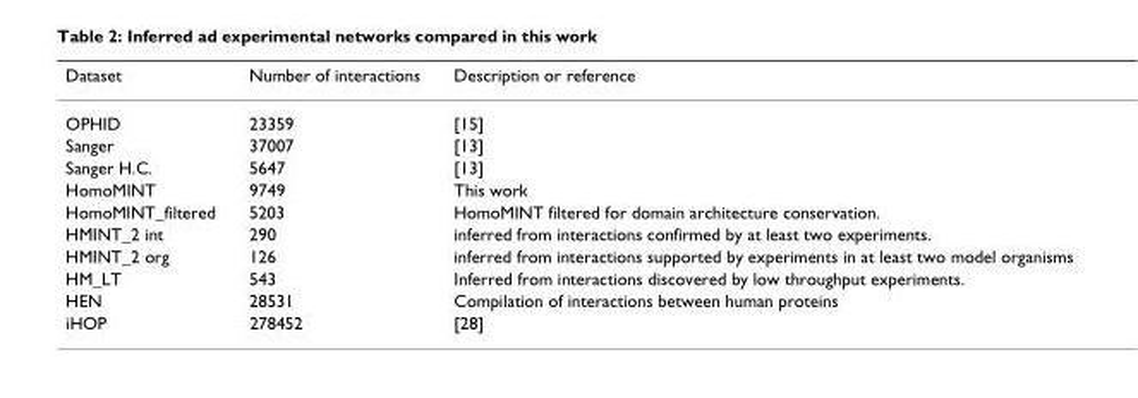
<table><thead><tr><td>Dataset</td><td>Number of interactions</td><td>Description or reference</td></tr></thead><tbody><tr><td>OPHID</td><td>23359</td><td>[15]</td></tr><tr><td>Sanger</td><td>37007</td><td>[13]</td></tr><tr><td>Sanger H.C.</td><td>5647</td><td>[13]</td></tr><tr><td>HomoMINT</td><td>9749</td><td>This work</td></tr><tr><td>HomoMINT_filtered</td><td>5203</td><td>HomoMINT filtered for domain architecture conservation.</td></tr><tr><td>HMINT_2 int</td><td>290</td><td>inferred from interactions confirmed by at least two experiments.</td></tr><tr><td>HMINT_2 org</td><td>126</td><td>inferred from interactions supported by experiments in at least two model organisms</td></tr><tr><td>HM_LT</td><td>543</td><td>Inferred from interactions discovered by low throughput experiments.</td></tr><tr><td>HEN</td><td>28531</td><td>Compilation of interactions between human proteins</td></tr><tr><td>iHOP</td><td>278452</td><td>[28]</td></tr></tbody></table>